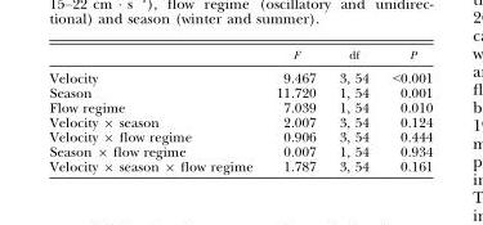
<table><thead><tr><td></td><td>F</td><td>df</td><td>P</td></tr></thead><tbody><tr><td>Velocity</td><td>9.467</td><td>3, 54</td><td>&lt;0.001</td></tr><tr><td>Season</td><td>11.720</td><td>1, 54</td><td>0.001</td></tr><tr><td>Flow regime</td><td>7.039</td><td>1, 54</td><td>0.010</td></tr><tr><td>Velocity × season</td><td>2.007</td><td>3, 54</td><td>0.124</td></tr><tr><td>Velocity × flow regime</td><td>0.906</td><td>3, 54</td><td>0.444</td></tr><tr><td>Season × flow regime</td><td>0.007</td><td>1, 54</td><td>0.934</td></tr><tr><td>Velocity × season × flow regime</td><td>1.787</td><td>3, 54</td><td>0.161</td></tr></tbody></table>